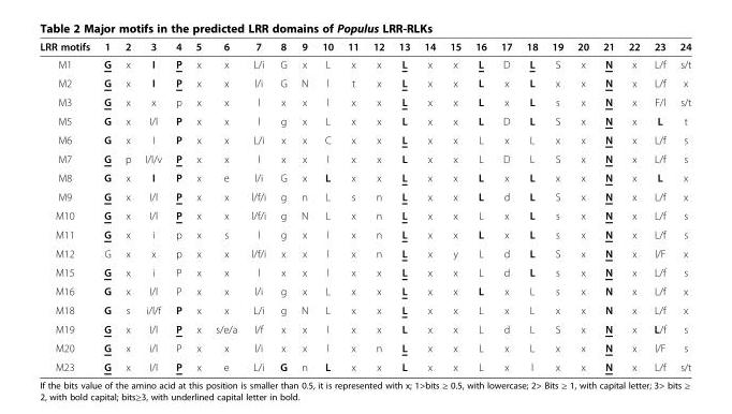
<table><thead><tr><td>LRR motifs</td><td>1</td><td>2</td><td>3</td><td>4</td><td>5</td><td>6</td><td>7</td><td>8</td><td>9</td><td>10</td><td>11</td><td>12</td><td>13</td><td>14</td><td>15</td><td>16</td><td>17</td><td>18</td><td>19</td><td>20</td><td>21</td><td>22</td><td>23</td><td>24</td></tr></thead><tbody><tr><td>M1</td><td>G</td><td>x</td><td>I</td><td>P</td><td>x</td><td>x</td><td>L/i</td><td>G</td><td>x</td><td>L</td><td>x</td><td>x</td><td>L</td><td>x</td><td>x</td><td>L</td><td>D</td><td>L</td><td>S</td><td>x</td><td>N</td><td>x</td><td>L/f</td><td>s/t</td></tr><tr><td>M2</td><td>G</td><td>x</td><td>I</td><td>P</td><td>x</td><td>x</td><td>l/i</td><td>G</td><td>N</td><td>l</td><td>t</td><td>x</td><td>L</td><td>x</td><td>x</td><td>L</td><td>x</td><td>L</td><td>x</td><td>x</td><td>N</td><td>x</td><td>L/f</td><td>x</td></tr><tr><td>M3</td><td>G</td><td>x</td><td>x</td><td>p</td><td>x</td><td>x</td><td>l</td><td>x</td><td>x</td><td>l</td><td>x</td><td>x</td><td>L</td><td>x</td><td>x</td><td>L</td><td>x</td><td>L</td><td>s</td><td>x</td><td>N</td><td>x</td><td>F/l</td><td>s/t</td></tr><tr><td>M5</td><td>G</td><td>x</td><td>I/l</td><td>P</td><td>x</td><td>x</td><td>l</td><td>g</td><td>x</td><td>L</td><td>x</td><td>x</td><td>L</td><td>x</td><td>x</td><td>L</td><td>D</td><td>L</td><td>S</td><td>x</td><td>N</td><td>x</td><td>L</td><td>t</td></tr><tr><td>M6</td><td>G</td><td>x</td><td>I</td><td>P</td><td>x</td><td>x</td><td>L/i</td><td>x</td><td>x</td><td>C</td><td>x</td><td>x</td><td>L</td><td>x</td><td>x</td><td>L</td><td>x</td><td>L</td><td>x</td><td>x</td><td>N</td><td>x</td><td>L/f</td><td>s</td></tr><tr><td>M7</td><td>G</td><td>p</td><td>I/l/v</td><td>P</td><td>x</td><td>x</td><td>l</td><td>x</td><td>x</td><td>l</td><td>x</td><td>x</td><td>L</td><td>x</td><td>x</td><td>L</td><td>D</td><td>L</td><td>S</td><td>x</td><td>N</td><td>x</td><td>L/f</td><td>s</td></tr><tr><td>M8</td><td>G</td><td>x</td><td>I</td><td>P</td><td>x</td><td>e</td><td>l/i</td><td>G</td><td>x</td><td>L</td><td>x</td><td>x</td><td>L</td><td>x</td><td>x</td><td>L</td><td>x</td><td>L</td><td>x</td><td>x</td><td>N</td><td>x</td><td>L</td><td>x</td></tr><tr><td>M9</td><td>G</td><td>x</td><td>I/l</td><td>P</td><td>x</td><td>x</td><td>l/f/i</td><td>g</td><td>n</td><td>L</td><td>s</td><td>n</td><td>L</td><td>x</td><td>x</td><td>L</td><td>d</td><td>L</td><td>S</td><td>x</td><td>N</td><td>x</td><td>L/f</td><td>x</td></tr><tr><td>M10</td><td>G</td><td>x</td><td>I/l</td><td>P</td><td>x</td><td>x</td><td>l/f/i</td><td>g</td><td>N</td><td>L</td><td>x</td><td>n</td><td>L</td><td>x</td><td>x</td><td>L</td><td>x</td><td>L</td><td>s</td><td>x</td><td>N</td><td>x</td><td>L/f</td><td>s</td></tr><tr><td>M11</td><td>G</td><td>x</td><td>i</td><td>p</td><td>x</td><td>s</td><td>l</td><td>g</td><td>x</td><td>l</td><td>x</td><td>n</td><td>L</td><td>x</td><td>x</td><td>L</td><td>x</td><td>L</td><td>s</td><td>x</td><td>N</td><td>x</td><td>L/f</td><td>s</td></tr><tr><td>M12</td><td>G</td><td>x</td><td>x</td><td>p</td><td>x</td><td>x</td><td>l/f/i</td><td>x</td><td>x</td><td>l</td><td>x</td><td>n</td><td>L</td><td>x</td><td>y</td><td>L</td><td>d</td><td>L</td><td>S</td><td>x</td><td>N</td><td>x</td><td>l/F</td><td>x</td></tr><tr><td>M15</td><td>G</td><td>x</td><td>i</td><td>P</td><td>x</td><td>x</td><td>l</td><td>x</td><td>x</td><td>l</td><td>x</td><td>x</td><td>L</td><td>x</td><td>x</td><td>L</td><td>d</td><td>L</td><td>s</td><td>x</td><td>N</td><td>x</td><td>L/f</td><td>s</td></tr><tr><td>M16</td><td>G</td><td>x</td><td>I/l</td><td>P</td><td>x</td><td>x</td><td>l/i</td><td>g</td><td>x</td><td>L</td><td>x</td><td>x</td><td>L</td><td>x</td><td>x</td><td>L</td><td>x</td><td>L</td><td>s</td><td>x</td><td>N</td><td>x</td><td>L/f</td><td>x</td></tr><tr><td>M18</td><td>G</td><td>s</td><td>i/l/f</td><td>P</td><td>x</td><td>x</td><td>L/i</td><td>g</td><td>N</td><td>L</td><td>x</td><td>x</td><td>L</td><td>x</td><td>x</td><td>L</td><td>x</td><td>L</td><td>x</td><td>x</td><td>N</td><td>x</td><td>L/f</td><td>x</td></tr><tr><td>M19</td><td>G</td><td>x</td><td>I/l</td><td>P</td><td>x</td><td>s/e/a</td><td>l/f</td><td>x</td><td>x</td><td>l</td><td>x</td><td>x</td><td>L</td><td>x</td><td>x</td><td>L</td><td>d</td><td>L</td><td>S</td><td>x</td><td>N</td><td>x</td><td>L/f</td><td>s</td></tr><tr><td>M20</td><td>G</td><td>x</td><td>i/l</td><td>P</td><td>x</td><td>x</td><td>l/i</td><td>x</td><td>x</td><td>l</td><td>x</td><td>n</td><td>L</td><td>x</td><td>x</td><td>L</td><td>x</td><td>L</td><td>x</td><td>x</td><td>N</td><td>x</td><td>l/F</td><td>s</td></tr><tr><td>M23</td><td>G</td><td>x</td><td>I/l</td><td>P</td><td>x</td><td>e</td><td>L/i</td><td>G</td><td>n</td><td>L</td><td>x</td><td>x</td><td>L</td><td>x</td><td>x</td><td>L</td><td>x</td><td>l</td><td>x</td><td>x</td><td>N</td><td>x</td><td>L/f</td><td>s/t</td></tr></tbody></table>